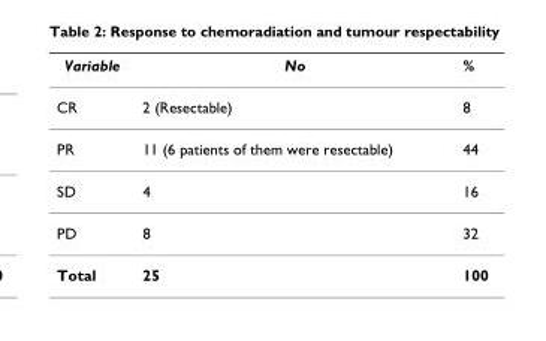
<table><thead><tr><td>Variable</td><td>No</td><td>%</td></tr></thead><tbody><tr><td>CR</td><td>2 (Resectable)</td><td>8</td></tr><tr><td>PR</td><td>11 (6 patients of them were resectable)</td><td>44</td></tr><tr><td>SD</td><td>4</td><td>16</td></tr><tr><td>PD</td><td>8</td><td>32</td></tr><tr><td>Total</td><td>25</td><td>100</td></tr></tbody></table>